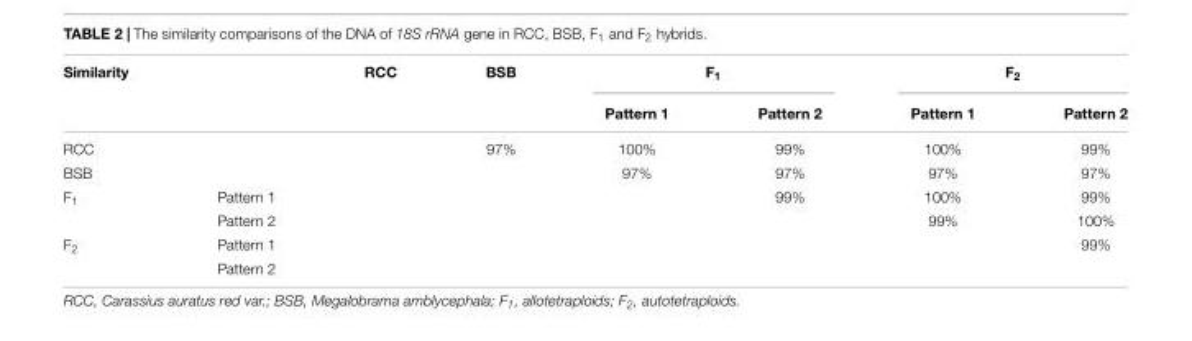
<table><thead><tr><td rowspan="2">Similarity</td><td rowspan="2"></td><td rowspan="2">RCC</td><td rowspan="2">BSB</td><td colspan="2">F<sub>1</sub></td><td colspan="2">F<sub>2</sub></td></tr><tr><td>Pattern 1</td><td>Pattern 2</td><td>Pattern 1</td><td>Pattern 2</td></tr></thead><tbody><tr><td>RCC</td><td></td><td></td><td>97%</td><td>100%</td><td>99%</td><td>100%</td><td>99%</td></tr><tr><td>BSB</td><td></td><td></td><td></td><td>97%</td><td>97%</td><td>97%</td><td>97%</td></tr><tr><td rowspan="2">F<sub>1</sub></td><td>Pattern 1</td><td></td><td></td><td></td><td>99%</td><td>100%</td><td>99%</td></tr><tr><td>Pattern 2</td><td></td><td></td><td></td><td></td><td>99%</td><td>100%</td></tr><tr><td rowspan="2">F<sub>2</sub></td><td>Pattern 1</td><td></td><td></td><td></td><td></td><td></td><td>99%</td></tr><tr><td>Pattern 2</td><td></td><td></td><td></td><td></td><td></td><td></td></tr></tbody></table>